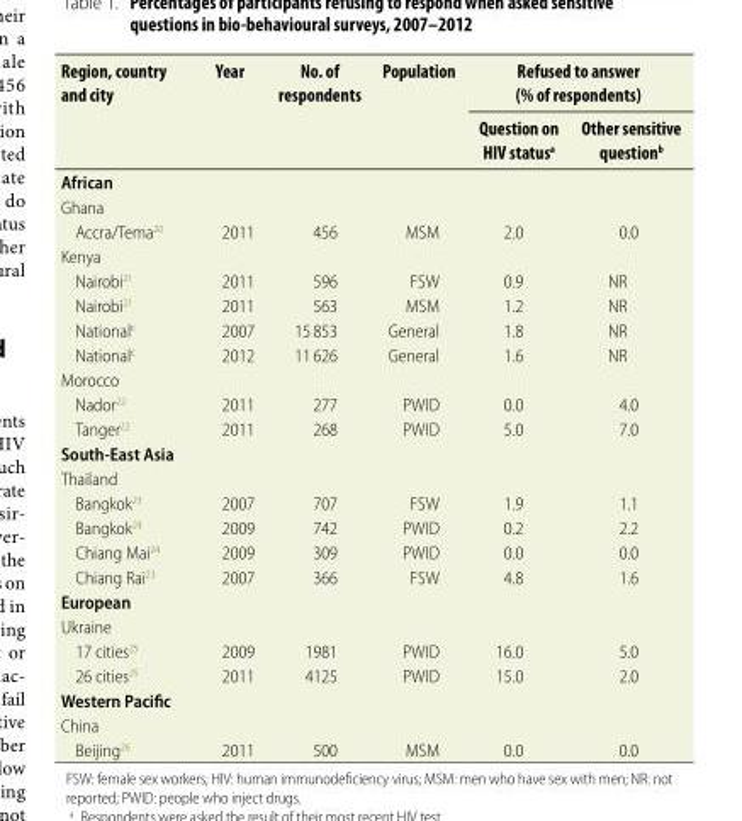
<table><thead><tr><td rowspan="2">Region, country and city</td><td rowspan="2">Year</td><td rowspan="2">No. of respondents</td><td rowspan="2">Population</td><td colspan="2">Refused to answer (% of respondents)</td></tr><tr><td>Question on HIV status<sup>a</sup></td><td>Other sensitive question<sup>b</sup></td></tr></thead><tbody><tr><td colspan="6">African</td></tr><tr><td colspan="6">Ghana</td></tr><tr><td>Accra/Tema<sup>20</sup></td><td>2011</td><td>456</td><td>MSM</td><td>2.0</td><td>0.0</td></tr><tr><td colspan="6">Kenya</td></tr><tr><td>Nairobi<sup>21</sup></td><td>2011</td><td>596</td><td>FSW</td><td>0.9</td><td>NR</td></tr><tr><td>Nairobi<sup>21</sup></td><td>2011</td><td>563</td><td>MSM</td><td>1.2</td><td>NR</td></tr><tr><td>National<sup>c</sup></td><td>2007</td><td>15 853</td><td>General</td><td>1.8</td><td>NR</td></tr><tr><td>National<sup>c</sup></td><td>2012</td><td>11 626</td><td>General</td><td>1.6</td><td>NR</td></tr><tr><td colspan="6">Morocco</td></tr><tr><td>Nador<sup>22</sup></td><td>2011</td><td>277</td><td>PWID</td><td>0.0</td><td>4.0</td></tr><tr><td>Tanger<sup>22</sup></td><td>2011</td><td>268</td><td>PWID</td><td>5.0</td><td>7.0</td></tr><tr><td colspan="6">South-East Asia</td></tr><tr><td colspan="6">Thailand</td></tr><tr><td>Bangkok<sup>23</sup></td><td>2007</td><td>707</td><td>FSW</td><td>1.9</td><td>1.1</td></tr><tr><td>Bangkok<sup>24</sup></td><td>2009</td><td>742</td><td>PWID</td><td>0.2</td><td>2.2</td></tr><tr><td>Chiang Mai<sup>24</sup></td><td>2009</td><td>309</td><td>PWID</td><td>0.0</td><td>0.0</td></tr><tr><td>Chiang Rai<sup>23</sup></td><td>2007</td><td>366</td><td>FSW</td><td>4.8</td><td>1.6</td></tr><tr><td colspan="6">European</td></tr><tr><td colspan="6">Ukraine</td></tr><tr><td>17 cities<sup>25</sup></td><td>2009</td><td>1981</td><td>PWID</td><td>16.0</td><td>5.0</td></tr><tr><td>26 cities<sup>25</sup></td><td>2011</td><td>4125</td><td>PWID</td><td>15.0</td><td>2.0</td></tr><tr><td colspan="6">Western Pacific</td></tr><tr><td colspan="6">China</td></tr><tr><td>Beijing<sup>26</sup></td><td>2011</td><td>500</td><td>MSM</td><td>0.0</td><td>0.0</td></tr></tbody></table>